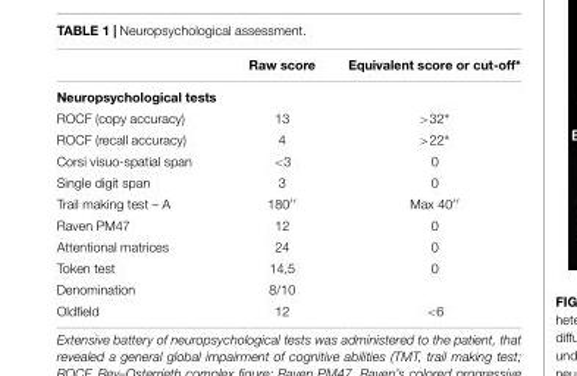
<table><thead><tr><td></td><td>Raw score</td><td>Equivalent score or cut-off∗</td></tr></thead><tbody><tr><td colspan="3">Neuropsychological tests</td></tr><tr><td>ROCF (copy accuracy)</td><td>13</td><td>&gt;32∗</td></tr><tr><td>ROCF (recall accuracy)</td><td>4</td><td>&gt;22∗</td></tr><tr><td>Corsi visuo-spatial span</td><td>&lt;3</td><td>0</td></tr><tr><td>Single digit span</td><td>3</td><td>0</td></tr><tr><td>Trail making test – A</td><td>180′′</td><td>Max 40′′</td></tr><tr><td>Raven PM47</td><td>12</td><td>0</td></tr><tr><td>Attentional matrices</td><td>24</td><td>0</td></tr><tr><td>Token test</td><td>14,5</td><td>0</td></tr><tr><td>Denomination</td><td>8/10</td><td></td></tr><tr><td>Oldfield</td><td>12</td><td>&lt;6</td></tr></tbody></table>